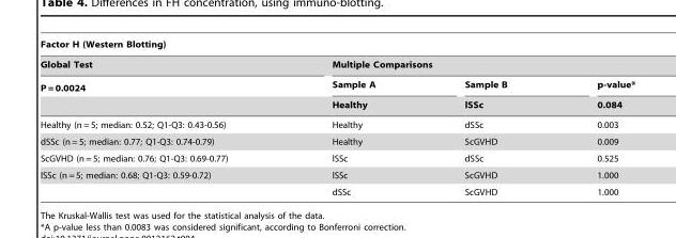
<table><thead><tr><td colspan="4">Factor H (Western Blotting)</td></tr><tr><td rowspan="3">Global Test P = 0.0024</td><td colspan="3">Multiple Comparisons</td></tr><tr><td rowspan="2">Sample A Healthy</td><td rowspan="2">Sample B lSSc</td><td rowspan="2">p-value* 0.084</td></tr><tr></tr></thead><tbody><tr><td>Healthy (n = 5; median: 0.52; Q1-Q3: 0.43-0.56)</td><td>Healthy</td><td>dSSc</td><td>0.003</td></tr><tr><td>dSSc (n = 5; median: 0.77; Q1-Q3: 0.74-0.79)</td><td>Healthy</td><td>ScGVHD</td><td>0.009</td></tr><tr><td>ScGVHD (n = 5; median: 0.76; Q1-Q3: 0.69-0.77)</td><td>lSSc</td><td>dSSc</td><td>0.525</td></tr><tr><td rowspan="2">lSSc (n = 5; median: 0.68; Q1-Q3: 0.59-0.72)</td><td>lSSc</td><td>ScGVHD</td><td>1.000</td></tr><tr><td>dSSc</td><td>ScGVHD</td><td>1.000</td></tr></tbody></table>